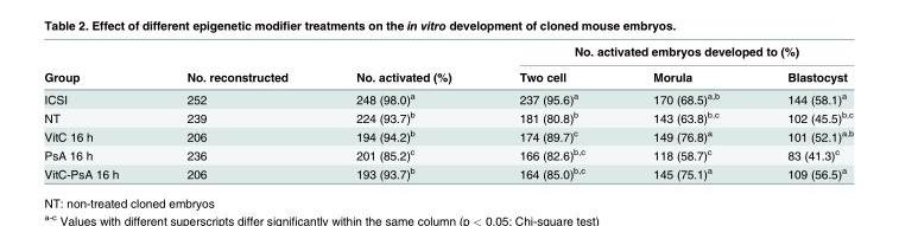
<table><thead><tr><td rowspan="2">Group</td><td rowspan="2">No. reconstructed</td><td rowspan="2">No. activated (%)</td><td colspan="3">No. activated embryos developed to (%)</td></tr><tr><td>Two cell</td><td>Morula</td><td>Blastocyst</td></tr></thead><tbody><tr><td>ICSI</td><td>252</td><td>248 (98.0)<sup>a</sup></td><td>237 (95.6)<sup>a</sup></td><td>170 (68.5)<sup>a,b</sup></td><td>144 (58.1)<sup>a</sup></td></tr><tr><td>NT</td><td>239</td><td>224 (93.7)<sup>b</sup></td><td>181 (80.8)<sup>b</sup></td><td>143 (63.8)<sup>b,c</sup></td><td>102 (45.5)<sup>b,c</sup></td></tr><tr><td>VitC 16 h</td><td>206</td><td>194 (94.2)<sup>b</sup></td><td>174 (89.7)<sup>c</sup></td><td>149 (76.8)<sup>a</sup></td><td>101 (52.1)<sup>a,b</sup></td></tr><tr><td>PsA 16 h</td><td>236</td><td>201 (85.2)<sup>c</sup></td><td>166 (82.6)<sup>b,c</sup></td><td>118 (58.7)<sup>c</sup></td><td>83 (41.3)<sup>c</sup></td></tr><tr><td>VitC-PsA 16 h</td><td>206</td><td>193 (93.7)<sup>b</sup></td><td>164 (85.0)<sup>b,c</sup></td><td>145 (75.1)<sup>a</sup></td><td>109 (56.5)<sup>a</sup></td></tr></tbody></table>